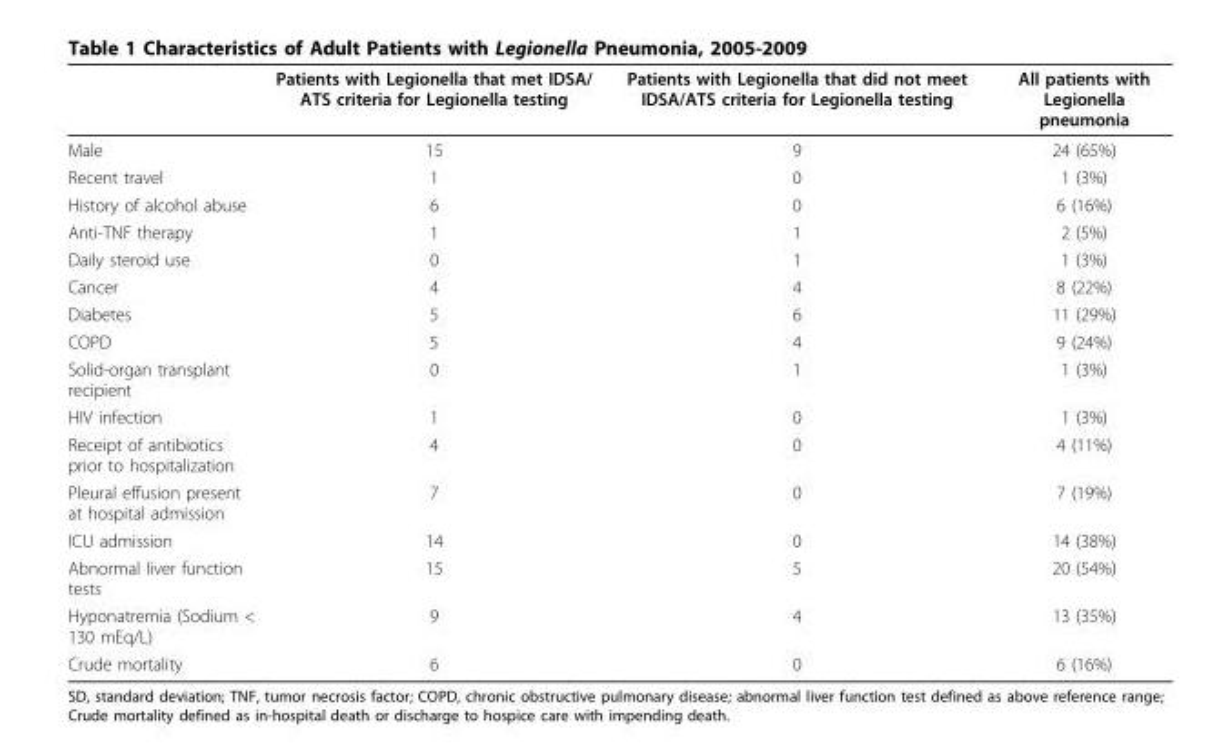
<table><thead><tr><td></td><td>Patients with Legionella that met IDSA/ ATS criteria for Legionella testing</td><td>Patients with Legionella that did not meet IDSA/ATS criteria for Legionella testing</td><td>All patients with Legionella pneumonia</td></tr></thead><tbody><tr><td>Male</td><td>15</td><td>9</td><td>24 (65%)</td></tr><tr><td>Recent travel</td><td>1</td><td>0</td><td>1 (3%)</td></tr><tr><td>History of alcohol abuse</td><td>6</td><td>0</td><td>6 (16%)</td></tr><tr><td>Anti-TNF therapy</td><td>1</td><td>1</td><td>2 (5%)</td></tr><tr><td>Daily steroid use</td><td>0</td><td>1</td><td>1 (3%)</td></tr><tr><td>Cancer</td><td>4</td><td>4</td><td>8 (22%)</td></tr><tr><td>Diabetes</td><td>5</td><td>6</td><td>11 (29%)</td></tr><tr><td>COPD</td><td>5</td><td>4</td><td>9 (24%)</td></tr><tr><td>Solid-organ transplant recipient</td><td>0</td><td>1</td><td>1 (3%)</td></tr><tr><td>HIV infection</td><td>1</td><td>0</td><td>1 (3%)</td></tr><tr><td>Receipt of antibiotics prior to hospitalization</td><td>4</td><td>0</td><td>4 (11%)</td></tr><tr><td>Pleural effusion present at hospital admission</td><td>7</td><td>0</td><td>7 (19%)</td></tr><tr><td>ICU admission</td><td>14</td><td>0</td><td>14 (38%)</td></tr><tr><td>Abnormal liver function tests</td><td>15</td><td>5</td><td>20 (54%)</td></tr><tr><td>Hyponatremia (Sodium &lt; 130 mEq/L)</td><td>9</td><td>4</td><td>13 (35%)</td></tr><tr><td>Crude mortality</td><td>6</td><td>0</td><td>6 (16%)</td></tr></tbody></table>